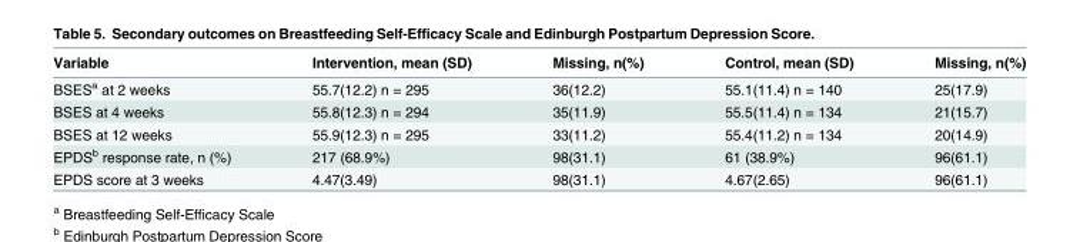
<table><thead><tr><td>Variable</td><td>Intervention, mean (SD)</td><td>Missing, n(%)</td><td>Control, mean (SD)</td><td>Missing, n(%)</td></tr></thead><tbody><tr><td>BSES<sup>a</sup> at 2 weeks</td><td>55.7(12.2) n = 295</td><td>36(12.2)</td><td>55.1(11.4) n = 140</td><td>25(17.9)</td></tr><tr><td>BSES at 4 weeks</td><td>55.8(12.3) n = 294</td><td>35(11.9)</td><td>55.5(11.4) n = 134</td><td>21(15.7)</td></tr><tr><td>BSES at 12 weeks</td><td>55.9(12.3) n = 295</td><td>33(11.2)</td><td>55.4(11.2) n = 134</td><td>20(14.9)</td></tr><tr><td>EPDS<sup>b</sup> response rate, n (%)</td><td>217 (68.9%)</td><td>98(31.1)</td><td>61 (38.9%)</td><td>96(61.1)</td></tr><tr><td>EPDS score at 3 weeks</td><td>4.47(3.49)</td><td>98(31.1)</td><td>4.67(2.65)</td><td>96(61.1)</td></tr></tbody></table>